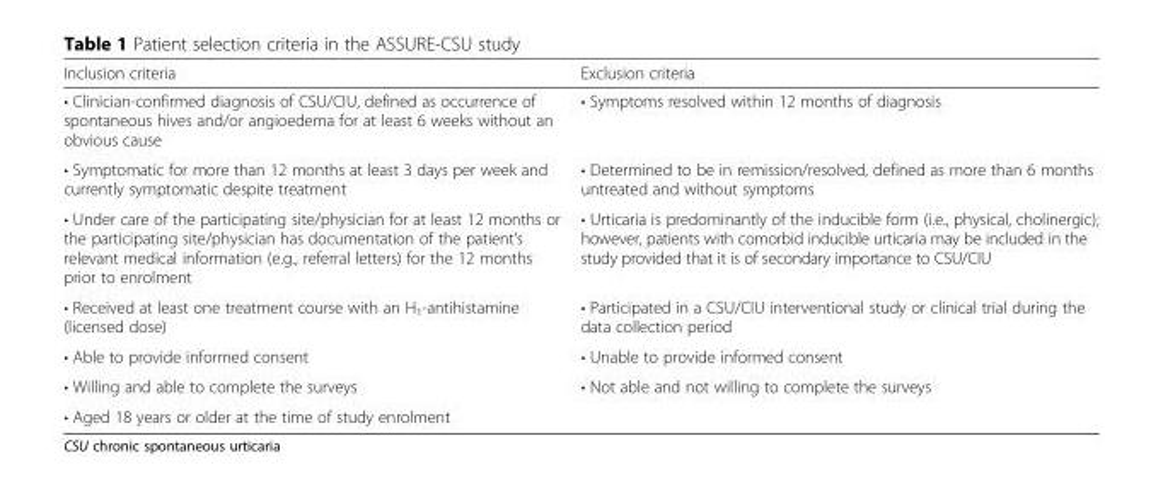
<table><thead><tr><td>Inclusion criteria</td><td>Exclusion criteria</td></tr></thead><tbody><tr><td>• Clinician-confirmed diagnosis of CSU/CIU, defined as occurrence of spontaneous hives and/or angioedema for at least 6 weeks without an obvious cause</td><td>• Symptoms resolved within 12 months of diagnosis</td></tr><tr><td>• Symptomatic for more than 12 months at least 3 days per week and currently symptomatic despite treatment</td><td>• Determined to be in remission/resolved, defined as more than 6 months untreated and without symptoms</td></tr><tr><td>• Under care of the participating site/physician for at least 12 months or the participating site/physician has documentation of the patient’s relevant medical information (e.g., referral letters) for the 12 months prior to enrolment</td><td>• Urticaria is predominantly of the inducible form (i.e., physical, cholinergic); however, patients with comorbid inducible urticaria may be included in the study provided that it is of secondary importance to CSU/CIU</td></tr><tr><td>• Received at least one treatment course with an H<sub>1</sub>-antihistamine (licensed dose)</td><td>• Participated in a CSU/CIU interventional study or clinical trial during the data collection period</td></tr><tr><td>• Able to provide informed consent</td><td>• Unable to provide informed consent</td></tr><tr><td>• Willing and able to complete the surveys</td><td>• Not able and not willing to complete the surveys</td></tr><tr><td>• Aged 18 years or older at the time of study enrolment</td><td></td></tr></tbody></table>